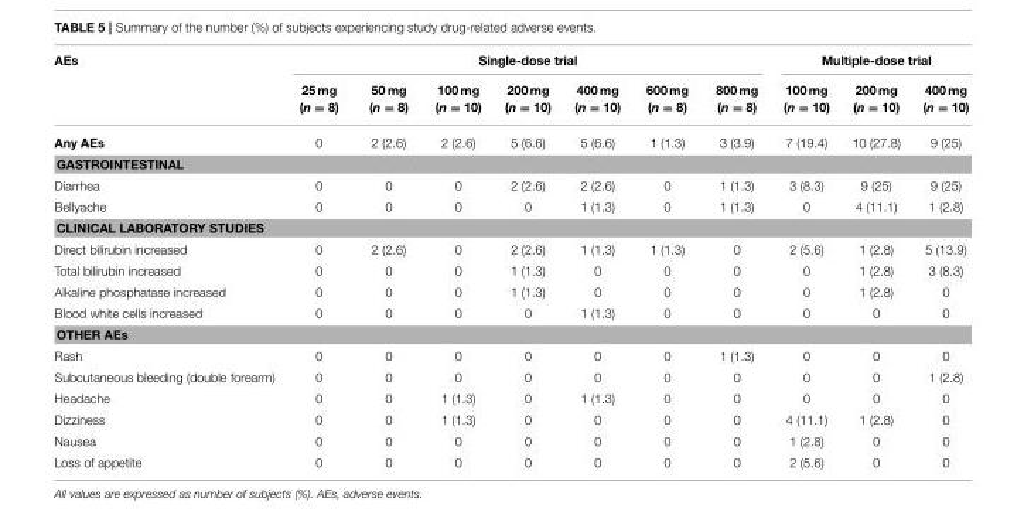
<table><thead><tr><td rowspan="2">AEs</td><td colspan="7">Single-dose trial</td><td colspan="3">Multiple-dose trial</td></tr><tr><td>25 mg (n = 8)</td><td>50 mg (n = 8)</td><td>100 mg (n = 10)</td><td>200 mg (n = 10)</td><td>400 mg (n = 10)</td><td>600 mg (n = 8)</td><td>800 mg (n = 8)</td><td>100 mg (n = 10)</td><td>200 mg (n = 10)</td><td>400 mg (n = 10)</td></tr></thead><tbody><tr><td>Any AEs</td><td>0</td><td>2 (2.6)</td><td>2 (2.6)</td><td>5 (6.6)</td><td>5 (6.6)</td><td>1 (1.3)</td><td>3 (3.9)</td><td>7 (19.4)</td><td>10 (27.8)</td><td>9 (25)</td></tr><tr><td colspan="11">GASTROINTESTINAL</td></tr><tr><td>Diarrhea</td><td>0</td><td>0</td><td>0</td><td>2 (2.6)</td><td>2 (2.6)</td><td>0</td><td>1 (1.3)</td><td>3 (8.3)</td><td>9 (25)</td><td>9 (25)</td></tr><tr><td>Bellyache</td><td>0</td><td>0</td><td>0</td><td>0</td><td>1 (1.3)</td><td>0</td><td>1 (1.3)</td><td>0</td><td>4 (11.1)</td><td>1 (2.8)</td></tr><tr><td colspan="11">CLINICAL LABORATORY STUDIES</td></tr><tr><td>Direct bilirubin increased</td><td>0</td><td>2 (2.6)</td><td>0</td><td>2 (2.6)</td><td>1 (1.3)</td><td>1 (1.3)</td><td>0</td><td>2 (5.6)</td><td>1 (2.8)</td><td>5 (13.9)</td></tr><tr><td>Total bilirubin increased</td><td>0</td><td>0</td><td>0</td><td>1 (1.3)</td><td>0</td><td>0</td><td>0</td><td>0</td><td>1 (2.8)</td><td>3 (8.3)</td></tr><tr><td>Alkaline phosphatase increased</td><td>0</td><td>0</td><td>0</td><td>1 (1.3)</td><td>0</td><td>0</td><td>0</td><td>0</td><td>1 (2.8)</td><td>0</td></tr><tr><td>Blood white cells increased</td><td>0</td><td>0</td><td>0</td><td>0</td><td>1 (1.3)</td><td>0</td><td>0</td><td>0</td><td>0</td><td>0</td></tr><tr><td colspan="11">OTHER AEs</td></tr><tr><td>Rash</td><td>0</td><td>0</td><td>0</td><td>0</td><td>0</td><td>0</td><td>1 (1.3)</td><td>0</td><td>0</td><td>0</td></tr><tr><td>Subcutaneous bleeding (double forearm)</td><td>0</td><td>0</td><td>0</td><td>0</td><td>0</td><td>0</td><td>0</td><td>0</td><td>0</td><td>1 (2.8)</td></tr><tr><td>Headache</td><td>0</td><td>0</td><td>1 (1.3)</td><td>0</td><td>1 (1.3)</td><td>0</td><td>0</td><td>0</td><td>0</td><td>0</td></tr><tr><td>Dizziness</td><td>0</td><td>0</td><td>1 (1.3)</td><td>0</td><td>0</td><td>0</td><td>0</td><td>4 (11.1)</td><td>1 (2.8)</td><td>0</td></tr><tr><td>Nausea</td><td>0</td><td>0</td><td>0</td><td>0</td><td>0</td><td>0</td><td>0</td><td>1 (2.8)</td><td>0</td><td>0</td></tr><tr><td>Loss of appetite</td><td>0</td><td>0</td><td>0</td><td>0</td><td>0</td><td>0</td><td>0</td><td>2 (5.6)</td><td>0</td><td>0</td></tr></tbody></table>